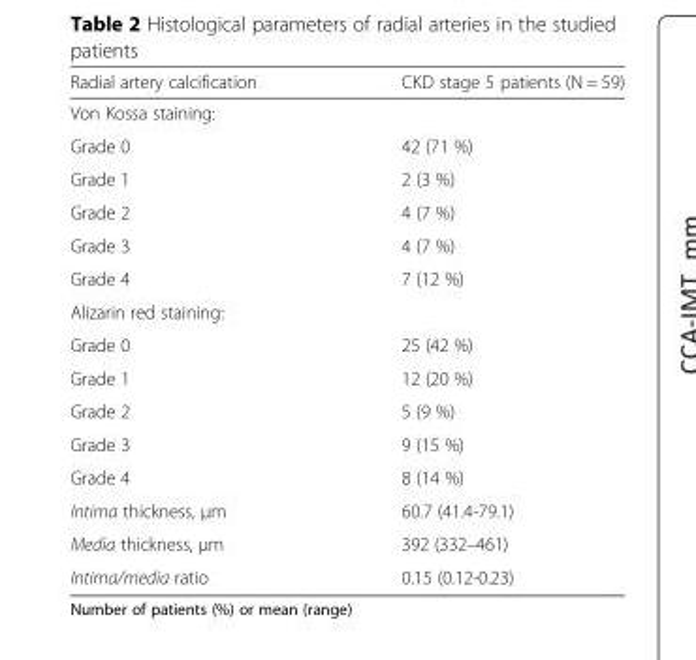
<table><thead><tr><td>Radial artery calcification</td><td>CKD stage 5 patients (N = 59)</td></tr></thead><tbody><tr><td colspan="2">Von Kossa staining:</td></tr><tr><td>Grade 0</td><td>42 (71 %)</td></tr><tr><td>Grade 1</td><td>2 (3 %)</td></tr><tr><td>Grade 2</td><td>4 (7 %)</td></tr><tr><td>Grade 3</td><td>4 (7 %)</td></tr><tr><td>Grade 4</td><td>7 (12 %)</td></tr><tr><td colspan="2">Alizarin red staining:</td></tr><tr><td>Grade 0</td><td>25 (42 %)</td></tr><tr><td>Grade 1</td><td>12 (20 %)</td></tr><tr><td>Grade 2</td><td>5 (9 %)</td></tr><tr><td>Grade 3</td><td>9 (15 %)</td></tr><tr><td>Grade 4</td><td>8 (14 %)</td></tr><tr><td>Intima thickness, μm</td><td>60.7 (41.4-79.1)</td></tr><tr><td>Media thickness, μm</td><td>392 (332–461)</td></tr><tr><td>Intima/media ratio</td><td>0.15 (0.12-0.23)</td></tr></tbody></table>